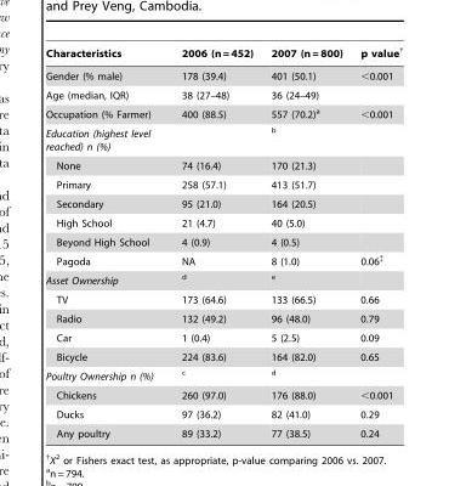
<table><thead><tr><td>Characteristics</td><td>2006 (n = 452)</td><td>2007 (n = 800)</td><td>p value†</td></tr></thead><tbody><tr><td>Gender (% male)</td><td>178 (39.4)</td><td>401 (50.1)</td><td>&lt;0.001</td></tr><tr><td>Age (median, IQR)</td><td>38 (27–48)</td><td>36 (24–49)</td><td></td></tr><tr><td>Occupation (% Farmer)</td><td>400 (88.5)</td><td>557 (70.2)<sup>a</sup></td><td>&lt;0.001</td></tr><tr><td>Education (highest level reached) n (%)</td><td></td><td>b</td><td></td></tr><tr><td>None</td><td>74 (16.4)</td><td>170 (21.3)</td><td></td></tr><tr><td>Primary</td><td>258 (57.1)</td><td>413 (51.7)</td><td></td></tr><tr><td>Secondary</td><td>95 (21.0)</td><td>164 (20.5)</td><td></td></tr><tr><td>High School</td><td>21 (4.7)</td><td>40 (5.0)</td><td></td></tr><tr><td>Beyond High School</td><td>4 (0.9)</td><td>4 (0.5)</td><td></td></tr><tr><td>Pagoda</td><td>NA</td><td>8 (1.0)</td><td>0.06‡</td></tr><tr><td>Asset Ownership</td><td>d</td><td><sup>e</sup></td><td></td></tr><tr><td>TV</td><td>173 (64.6)</td><td>133 (66.5)</td><td>0.66</td></tr><tr><td>Radio</td><td>132 (49.2)</td><td>96 (48.0)</td><td>0.79</td></tr><tr><td>Car</td><td>1 (0.4)</td><td>5 (2.5)</td><td>0.09</td></tr><tr><td>Bicycle</td><td>224 (83.6)</td><td>164 (82.0)</td><td>0.65</td></tr><tr><td>Poultry Ownership n (%)</td><td>c</td><td>d</td><td></td></tr><tr><td>Chickens</td><td>260 (97.0)</td><td>176 (88.0)</td><td>&lt;0.001</td></tr><tr><td>Ducks</td><td>97 (36.2)</td><td>82 (41.0)</td><td>0.29</td></tr><tr><td>Any poultry</td><td>89 (33.2)</td><td>77 (38.5)</td><td>0.24</td></tr></tbody></table>